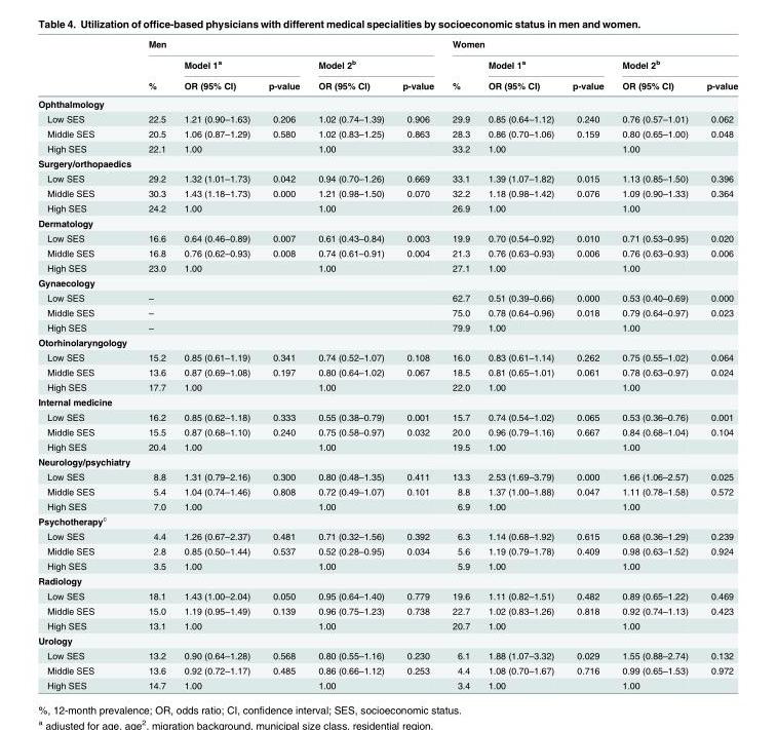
<table><thead><tr><td rowspan="3"></td><td colspan="5">Men</td><td colspan="5">Women</td></tr><tr><td rowspan="2">%</td><td colspan="2">Model 1<sup>a</sup></td><td colspan="2">Model 2<sup>b</sup></td><td rowspan="2">%</td><td colspan="2">Model 1<sup>a</sup></td><td colspan="2">Model 2<sup>b</sup></td></tr><tr><td>OR (95% CI)</td><td>p-value</td><td>OR (95% CI)</td><td>p-value</td><td>OR (95% CI)</td><td>p-value</td><td>OR (95% CI)</td><td>p-value</td></tr></thead><tbody><tr><td colspan="11">Ophthalmology</td></tr><tr><td>Low SES</td><td>22.5</td><td>1.21 (0.90–1.63)</td><td>0.206</td><td>1.02 (0.74–1.39)</td><td>0.906</td><td>29.9</td><td>0.85 (0.64–1.12)</td><td>0.240</td><td>0.76 (0.57–1.01)</td><td>0.062</td></tr><tr><td>Middle SES</td><td>20.5</td><td>1.06 (0.87–1.29)</td><td>0.580</td><td>1.02 (0.83–1.25)</td><td>0.863</td><td>28.3</td><td>0.86 (0.70–1.06)</td><td>0.159</td><td>0.80 (0.65–1.00)</td><td>0.048</td></tr><tr><td>High SES</td><td>22.1</td><td>1.00</td><td></td><td>1.00</td><td></td><td>33.2</td><td>1.00</td><td></td><td>1.00</td><td></td></tr><tr><td colspan="11">Surgery/orthopaedics</td></tr><tr><td>Low SES</td><td>29.2</td><td>1.32 (1.01–1.73)</td><td>0.042</td><td>0.94 (0.70–1.26)</td><td>0.669</td><td>33.1</td><td>1.39 (1.07–1.82)</td><td>0.015</td><td>1.13 (0.85–1.50)</td><td>0.396</td></tr><tr><td>Middle SES</td><td>30.3</td><td>1.43 (1.18–1.73)</td><td>0.000</td><td>1.21 (0.98–1.50)</td><td>0.070</td><td>32.2</td><td>1.18 (0.98–1.42)</td><td>0.076</td><td>1.09 (0.90–1.33)</td><td>0.364</td></tr><tr><td>High SES</td><td>24.2</td><td>1.00</td><td></td><td>1.00</td><td></td><td>26.9</td><td>1.00</td><td></td><td>1.00</td><td></td></tr><tr><td colspan="11">Dermatology</td></tr><tr><td>Low SES</td><td>16.6</td><td>0.64 (0.46–0.89)</td><td>0.007</td><td>0.61 (0.43–0.84)</td><td>0.003</td><td>19.9</td><td>0.70 (0.54–0.92)</td><td>0.010</td><td>0.71 (0.53–0.95)</td><td>0.020</td></tr><tr><td>Middle SES</td><td>16.8</td><td>0.76 (0.62–0.93)</td><td>0.008</td><td>0.74 (0.61–0.91)</td><td>0.004</td><td>21.3</td><td>0.76 (0.63–0.93)</td><td>0.006</td><td>0.76 (0.63–0.93)</td><td>0.006</td></tr><tr><td>High SES</td><td>23.0</td><td>1.00</td><td></td><td>1.00</td><td></td><td>27.1</td><td>1.00</td><td></td><td>1.00</td><td></td></tr><tr><td colspan="11">Gynaecology</td></tr><tr><td>Low SES</td><td>–</td><td></td><td></td><td></td><td></td><td>62.7</td><td>0.51 (0.39–0.66)</td><td>0.000</td><td>0.53 (0.40–0.69)</td><td>0.000</td></tr><tr><td>Middle SES</td><td>–</td><td></td><td></td><td></td><td></td><td>75.0</td><td>0.78 (0.64–0.96)</td><td>0.018</td><td>0.79 (0.64–0.97)</td><td>0.023</td></tr><tr><td>High SES</td><td>–</td><td></td><td></td><td></td><td></td><td>79.9</td><td>1.00</td><td></td><td>1.00</td><td></td></tr><tr><td colspan="11">Otorhinolaryngology</td></tr><tr><td>Low SES</td><td>15.2</td><td>0.85 (0.61–1.19)</td><td>0.341</td><td>0.74 (0.52–1.07)</td><td>0.108</td><td>16.0</td><td>0.83 (0.61–1.14)</td><td>0.262</td><td>0.75 (0.55–1.02)</td><td>0.064</td></tr><tr><td>Middle SES</td><td>13.6</td><td>0.87 (0.69–1.08)</td><td>0.197</td><td>0.80 (0.64–1.02)</td><td>0.067</td><td>18.5</td><td>0.81 (0.65–1.01)</td><td>0.061</td><td>0.78 (0.63–0.97)</td><td>0.024</td></tr><tr><td>High SES</td><td>17.7</td><td>1.00</td><td></td><td>1.00</td><td></td><td>22.0</td><td>1.00</td><td></td><td>1.00</td><td></td></tr><tr><td colspan="11">Internal medicine</td></tr><tr><td>Low SES</td><td>16.2</td><td>0.85 (0.62–1.18)</td><td>0.333</td><td>0.55 (0.38–0.79)</td><td>0.001</td><td>15.7</td><td>0.74 (0.54–1.02)</td><td>0.065</td><td>0.53 (0.36–0.76)</td><td>0.001</td></tr><tr><td>Middle SES</td><td>15.5</td><td>0.87 (0.68–1.10)</td><td>0.240</td><td>0.75 (0.58–0.97)</td><td>0.032</td><td>20.0</td><td>0.96 (0.79–1.16)</td><td>0.667</td><td>0.84 (0.68–1.04)</td><td>0.104</td></tr><tr><td>High SES</td><td>20.4</td><td>1.00</td><td></td><td>1.00</td><td></td><td>19.5</td><td>1.00</td><td></td><td>1.00</td><td></td></tr><tr><td colspan="11">Neurology/psychiatry</td></tr><tr><td>Low SES</td><td>8.8</td><td>1.31 (0.79–2.16)</td><td>0.300</td><td>0.80 (0.48–1.35)</td><td>0.411</td><td>13.3</td><td>2.53 (1.69–3.79)</td><td>0.000</td><td>1.66 (1.06–2.57)</td><td>0.025</td></tr><tr><td>Middle SES</td><td>5.4</td><td>1.04 (0.74–1.46)</td><td>0.808</td><td>0.72 (0.49–1.07)</td><td>0.101</td><td>8.8</td><td>1.37 (1.00–1.88)</td><td>0.047</td><td>1.11 (0.78–1.58)</td><td>0.572</td></tr><tr><td>High SES</td><td>7.0</td><td>1.00</td><td></td><td>1.00</td><td></td><td>6.9</td><td>1.00</td><td></td><td>1.00</td><td></td></tr><tr><td colspan="11">Psychotherapy<sup>c</sup></td></tr><tr><td>Low SES</td><td>4.4</td><td>1.26 (0.67–2.37)</td><td>0.481</td><td>0.71 (0.32–1.56)</td><td>0.392</td><td>6.3</td><td>1.14 (0.68–1.92)</td><td>0.615</td><td>0.68 (0.36–1.29)</td><td>0.239</td></tr><tr><td>Middle SES</td><td>2.8</td><td>0.85 (0.50–1.44)</td><td>0.537</td><td>0.52 (0.28–0.95)</td><td>0.034</td><td>5.6</td><td>1.19 (0.79–1.78)</td><td>0.409</td><td>0.98 (0.63–1.52)</td><td>0.924</td></tr><tr><td>High SES</td><td>3.5</td><td>1.00</td><td></td><td>1.00</td><td></td><td>5.9</td><td>1.00</td><td></td><td>1.00</td><td></td></tr><tr><td colspan="11">Radiology</td></tr><tr><td>Low SES</td><td>18.1</td><td>1.43 (1.00–2.04)</td><td>0.050</td><td>0.95 (0.64–1.40)</td><td>0.779</td><td>19.6</td><td>1.11 (0.82–1.51)</td><td>0.482</td><td>0.89 (0.65–1.22)</td><td>0.469</td></tr><tr><td>Middle SES</td><td>15.0</td><td>1.19 (0.95–1.49)</td><td>0.139</td><td>0.96 (0.75–1.23)</td><td>0.738</td><td>22.7</td><td>1.02 (0.83–1.26)</td><td>0.818</td><td>0.92 (0.74–1.13)</td><td>0.423</td></tr><tr><td>High SES</td><td>13.1</td><td>1.00</td><td></td><td>1.00</td><td></td><td>20.7</td><td>1.00</td><td></td><td>1.00</td><td></td></tr><tr><td colspan="11">Urology</td></tr><tr><td>Low SES</td><td>13.2</td><td>0.90 (0.64–1.28)</td><td>0.568</td><td>0.80 (0.55–1.16)</td><td>0.230</td><td>6.1</td><td>1.88 (1.07–3.32)</td><td>0.029</td><td>1.55 (0.88–2.74)</td><td>0.132</td></tr><tr><td>Middle SES</td><td>13.6</td><td>0.92 (0.72–1.17)</td><td>0.485</td><td>0.86 (0.66–1.12)</td><td>0.253</td><td>4.4</td><td>1.08 (0.70–1.67)</td><td>0.716</td><td>0.99 (0.65–1.53)</td><td>0.972</td></tr><tr><td>High SES</td><td>14.7</td><td>1.00</td><td></td><td>1.00</td><td></td><td>3.4</td><td>1.00</td><td></td><td>1.00</td><td></td></tr></tbody></table>